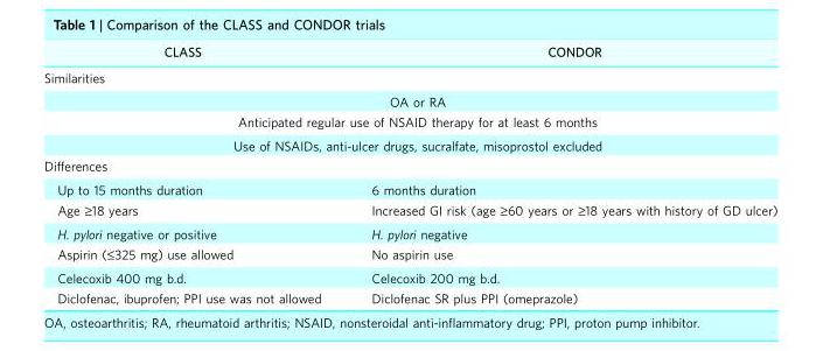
<table><thead><tr><td>CLASS</td><td>CONDOR</td></tr></thead><tbody><tr><td colspan="2">Similarities</td></tr><tr><td colspan="2">OA or RA</td></tr><tr><td colspan="2">Anticipated regular use of NSAID therapy for at least 6 months</td></tr><tr><td colspan="2">Use of NSAIDs, anti-ulcer drugs, sucralfate, misoprostol excluded</td></tr><tr><td colspan="2">Differences</td></tr><tr><td>Up to 15 months duration</td><td>6 months duration</td></tr><tr><td>Age ‡18 years</td><td>Increased GI risk (age ‡60 years or ‡18 years with history of GD ulcer)</td></tr><tr><td>H. pylori negative or positive</td><td>H. pylori negative</td></tr><tr><td>Aspirin (≤325 mg) use allowed</td><td>No aspirin use</td></tr><tr><td>Celecoxib 400 mg b.d.</td><td>Celecoxib 200 mg b.d.</td></tr><tr><td>Diclofenac, ibuprofen; PPI use was not allowed</td><td>Diclofenac SR plus PPI (omeprazole)</td></tr></tbody></table>